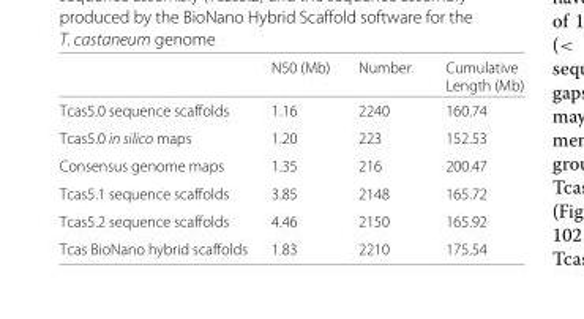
<table><thead><tr><td></td><td>N50 (Mb)</td><td>Number</td><td>Cumulative Length (Mb)</td></tr></thead><tbody><tr><td>Tcas5.0 sequence scaffolds</td><td>1.16</td><td>2240</td><td>160.74</td></tr><tr><td>Tcas5.0 in silico maps</td><td>1.20</td><td>223</td><td>152.53</td></tr><tr><td>Consensus genome maps</td><td>1.35</td><td>216</td><td>200.47</td></tr><tr><td>Tcas5.1 sequence scaffolds</td><td>3.85</td><td>2148</td><td>165.72</td></tr><tr><td>Tcas5.2 sequence scaffolds</td><td>4.46</td><td>2150</td><td>165.92</td></tr><tr><td>Tcas BioNano hybrid scaffolds</td><td>1.83</td><td>2210</td><td>175.54</td></tr></tbody></table>